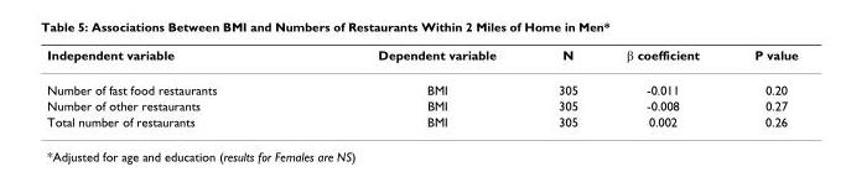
<table><thead><tr><td>Independent variable</td><td>Dependent variable</td><td>N</td><td>β coefficient</td><td>P value</td></tr></thead><tbody><tr><td>Number of fast food restaurants</td><td>BMI</td><td>305</td><td>-0.011</td><td>0.20</td></tr><tr><td>Number of other restaurants</td><td>BMI</td><td>305</td><td>-0.008</td><td>0.27</td></tr><tr><td>Total number of restaurants</td><td>BMI</td><td>305</td><td>0.002</td><td>0.26</td></tr></tbody></table>